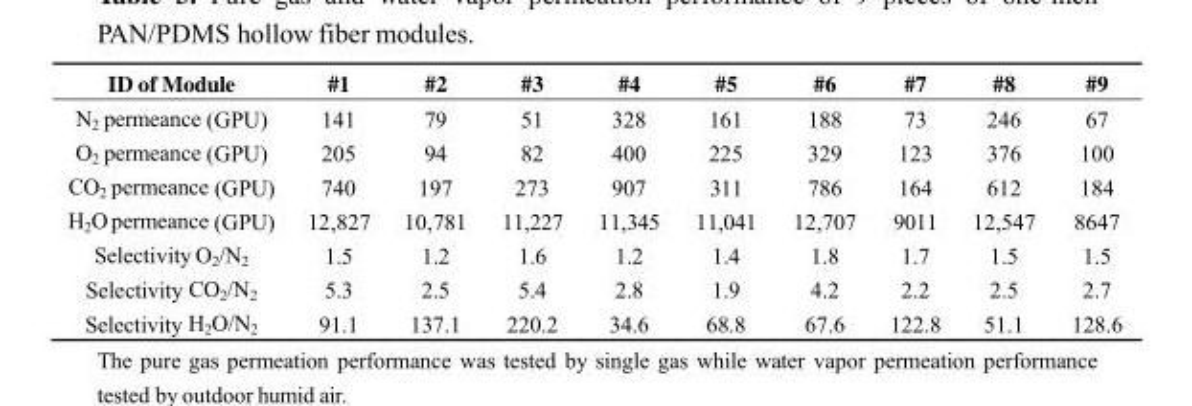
<table><thead><tr><td>ID of Module</td><td>#1</td><td>#2</td><td>#3</td><td>#4</td><td>#5</td><td>#6</td><td>#7</td><td>#8</td><td>#9</td></tr></thead><tbody><tr><td>N<sub>2</sub> permeance (GPU)</td><td>141</td><td>79</td><td>51</td><td>328</td><td>161</td><td>188</td><td>73</td><td>246</td><td>67</td></tr><tr><td>O<sub>2</sub> permeance (GPU)</td><td>205</td><td>94</td><td>82</td><td>400</td><td>225</td><td>329</td><td>123</td><td>376</td><td>100</td></tr><tr><td>CO<sub>2</sub> permeance (GPU)</td><td>740</td><td>197</td><td>273</td><td>907</td><td>311</td><td>786</td><td>164</td><td>612</td><td>184</td></tr><tr><td>H<sub>2</sub>O permeance (GPU)</td><td>12,827</td><td>10,781</td><td>11,227</td><td>11,345</td><td>11,041</td><td>12,707</td><td>9011</td><td>12,547</td><td>8647</td></tr><tr><td>Selectivity O<sub>2</sub>/N<sub>2</sub></td><td>1.5</td><td>1.2</td><td>1.6</td><td>1.2</td><td>1.4</td><td>1.8</td><td>1.7</td><td>1.5</td><td>1.5</td></tr><tr><td>Selectivity CO<sub>2</sub>/N<sub>2</sub></td><td>5.3</td><td>2.5</td><td>5.4</td><td>2.8</td><td>1.9</td><td>4.2</td><td>2.2</td><td>2.5</td><td>2.7</td></tr><tr><td>Selectivity H<sub>2</sub>O/N<sub>2</sub></td><td>91.1</td><td>137.1</td><td>220.2</td><td>34.6</td><td>68.8</td><td>67.6</td><td>122.8</td><td>51.1</td><td>128.6</td></tr></tbody></table>